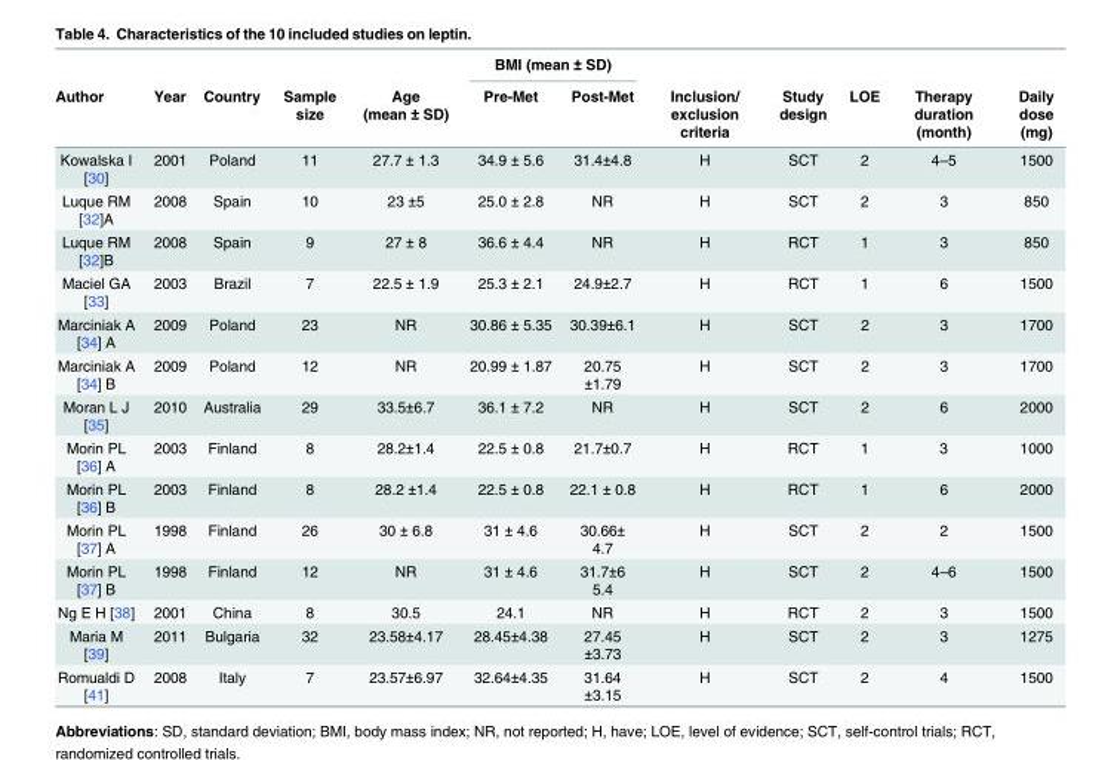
<table><thead><tr><td rowspan="2">Author</td><td rowspan="2">Year</td><td rowspan="2">Country</td><td rowspan="2">Sample size</td><td rowspan="2">Age (mean ± SD)</td><td colspan="2">BMI (mean ± SD)</td><td rowspan="2">Inclusion/ exclusion criteria</td><td rowspan="2">Study design</td><td rowspan="2">LOE</td><td rowspan="2">Therapy duration (month)</td><td rowspan="2">Daily dose (mg)</td></tr><tr><td>Pre-Met</td><td>Post-Met</td></tr></thead><tbody><tr><td>Kowalska I [30]</td><td>2001</td><td>Poland</td><td>11</td><td>27.7 ± 1.3</td><td>34.9 ± 5.6</td><td>31.4±4.8</td><td>H</td><td>SCT</td><td>2</td><td>4–5</td><td>1500</td></tr><tr><td>Luque RM [32]A</td><td>2008</td><td>Spain</td><td>10</td><td>23 ±5</td><td>25.0 ± 2.8</td><td>NR</td><td>H</td><td>SCT</td><td>2</td><td>3</td><td>850</td></tr><tr><td>Luque RM [32]B</td><td>2008</td><td>Spain</td><td>9</td><td>27 ± 8</td><td>36.6 ± 4.4</td><td>NR</td><td>H</td><td>RCT</td><td>1</td><td>3</td><td>850</td></tr><tr><td>Maciel GA [33]</td><td>2003</td><td>Brazil</td><td>7</td><td>22.5 ± 1.9</td><td>25.3 ± 2.1</td><td>24.9±2.7</td><td>H</td><td>RCT</td><td>1</td><td>6</td><td>1500</td></tr><tr><td>Marciniak A [34] A</td><td>2009</td><td>Poland</td><td>23</td><td>NR</td><td>30.86 ± 5.35</td><td>30.39±6.1</td><td>H</td><td>SCT</td><td>2</td><td>3</td><td>1700</td></tr><tr><td>Marciniak A [34] B</td><td>2009</td><td>Poland</td><td>12</td><td>NR</td><td>20.99 ± 1.87</td><td>20.75 ±1.79</td><td>H</td><td>SCT</td><td>2</td><td>3</td><td>1700</td></tr><tr><td>Moran L J [35]</td><td>2010</td><td>Australia</td><td>29</td><td>33.5±6.7</td><td>36.1 ± 7.2</td><td>NR</td><td>H</td><td>SCT</td><td>2</td><td>6</td><td>2000</td></tr><tr><td>Morin PL [36] A</td><td>2003</td><td>Finland</td><td>8</td><td>28.2±1.4</td><td>22.5 ± 0.8</td><td>21.7±0.7</td><td>H</td><td>RCT</td><td>1</td><td>3</td><td>1000</td></tr><tr><td>Morin PL [36] B</td><td>2003</td><td>Finland</td><td>8</td><td>28.2 ±1.4</td><td>22.5 ± 0.8</td><td>22.1 ± 0.8</td><td>H</td><td>RCT</td><td>1</td><td>6</td><td>2000</td></tr><tr><td>Morin PL [37] A</td><td>1998</td><td>Finland</td><td>26</td><td>30 ± 6.8</td><td>31 ± 4.6</td><td>30.66± 4.7</td><td>H</td><td>SCT</td><td>2</td><td>2</td><td>1500</td></tr><tr><td>Morin PL [37] B</td><td>1998</td><td>Finland</td><td>12</td><td>NR</td><td>31 ± 4.6</td><td>31.7±6 5.4</td><td>H</td><td>SCT</td><td>2</td><td>4–6</td><td>1500</td></tr><tr><td>Ng E H [38]</td><td>2001</td><td>China</td><td>8</td><td>30.5</td><td>24.1</td><td>NR</td><td>H</td><td>RCT</td><td>2</td><td>3</td><td>1500</td></tr><tr><td>Maria M [39]</td><td>2011</td><td>Bulgaria</td><td>32</td><td>23.58±4.17</td><td>28.45±4.38</td><td>27.45 ±3.73</td><td>H</td><td>SCT</td><td>2</td><td>3</td><td>1275</td></tr><tr><td>Romualdi D [41]</td><td>2008</td><td>Italy</td><td>7</td><td>23.57±6.97</td><td>32.64±4.35</td><td>31.64 ±3.15</td><td>H</td><td>SCT</td><td>2</td><td>4</td><td>1500</td></tr></tbody></table>